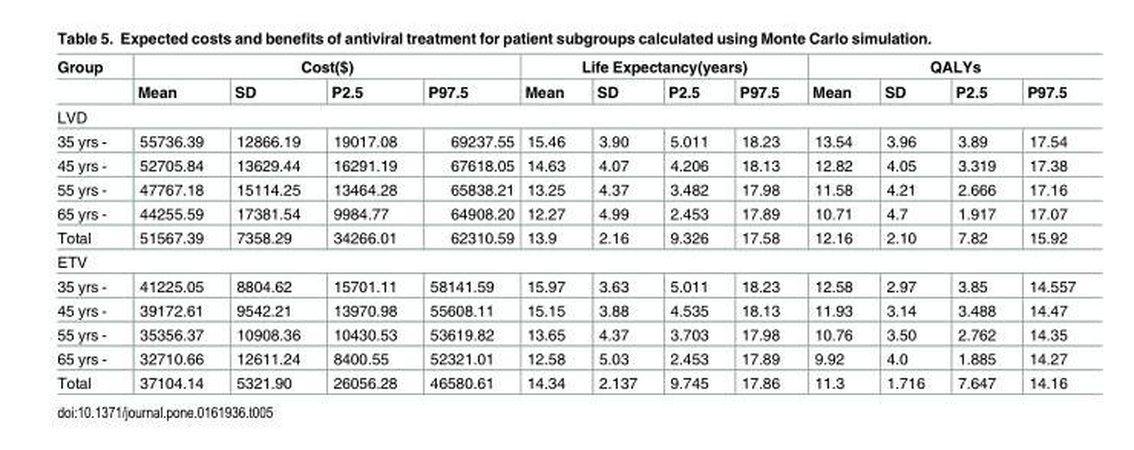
<table><thead><tr><td rowspan="2">Group</td><td colspan="4">Cost($)</td><td colspan="4">Life Expectancy(years)</td><td colspan="4">QALYs</td></tr><tr><td>Mean</td><td>SD</td><td>P2.5</td><td>P97.5</td><td>Mean</td><td>SD</td><td>P2.5</td><td>P97.5</td><td>Mean</td><td>SD</td><td>P2.5</td><td>P97.5</td></tr></thead><tbody><tr><td colspan="13">LVD</td></tr><tr><td>35 yrs -</td><td>55736.39</td><td>12866.19</td><td>19017.08</td><td>69237.55</td><td>15.46</td><td>3.90</td><td>5.011</td><td>18.23</td><td>13.54</td><td>3.96</td><td>3.89</td><td>17.54</td></tr><tr><td>45 yrs -</td><td>52705.84</td><td>13629.44</td><td>16291.19</td><td>67618.05</td><td>14.63</td><td>4.07</td><td>4.206</td><td>18.13</td><td>12.82</td><td>4.05</td><td>3.319</td><td>17.38</td></tr><tr><td>55 yrs -</td><td>47767.18</td><td>15114.25</td><td>13464.28</td><td>65838.21</td><td>13.25</td><td>4.37</td><td>3.482</td><td>17.98</td><td>11.58</td><td>4.21</td><td>2.666</td><td>17.16</td></tr><tr><td>65 yrs -</td><td>44255.59</td><td>17381.54</td><td>9984.77</td><td>64908.20</td><td>12.27</td><td>4.99</td><td>2.453</td><td>17.89</td><td>10.71</td><td>4.7</td><td>1.917</td><td>17.07</td></tr><tr><td>Total</td><td>51567.39</td><td>7358.29</td><td>34266.01</td><td>62310.59</td><td>13.9</td><td>2.16</td><td>9.326</td><td>17.58</td><td>12.16</td><td>2.10</td><td>7.82</td><td>15.92</td></tr><tr><td colspan="13">ETV</td></tr><tr><td>35 yrs -</td><td>41225.05</td><td>8804.62</td><td>15701.11</td><td>58141.59</td><td>15.97</td><td>3.63</td><td>5.011</td><td>18.23</td><td>12.58</td><td>2.97</td><td>3.85</td><td>14.557</td></tr><tr><td>45 yrs -</td><td>39172.61</td><td>9542.21</td><td>13970.98</td><td>55608.11</td><td>15.15</td><td>3.88</td><td>4.535</td><td>18.13</td><td>11.93</td><td>3.14</td><td>3.488</td><td>14.47</td></tr><tr><td>55 yrs -</td><td>35356.37</td><td>10908.36</td><td>10430.53</td><td>53619.82</td><td>13.65</td><td>4.37</td><td>3.703</td><td>17.98</td><td>10.76</td><td>3.50</td><td>2.762</td><td>14.35</td></tr><tr><td>65 yrs -</td><td>32710.66</td><td>12611.24</td><td>8400.55</td><td>52321.01</td><td>12.58</td><td>5.03</td><td>2.453</td><td>17.89</td><td>9.92</td><td>4.0</td><td>1.885</td><td>14.27</td></tr><tr><td>Total</td><td>37104.14</td><td>5321.90</td><td>26056.28</td><td>46580.61</td><td>14.34</td><td>2.137</td><td>9.745</td><td>17.86</td><td>11.3</td><td>1.716</td><td>7.647</td><td>14.16</td></tr></tbody></table>